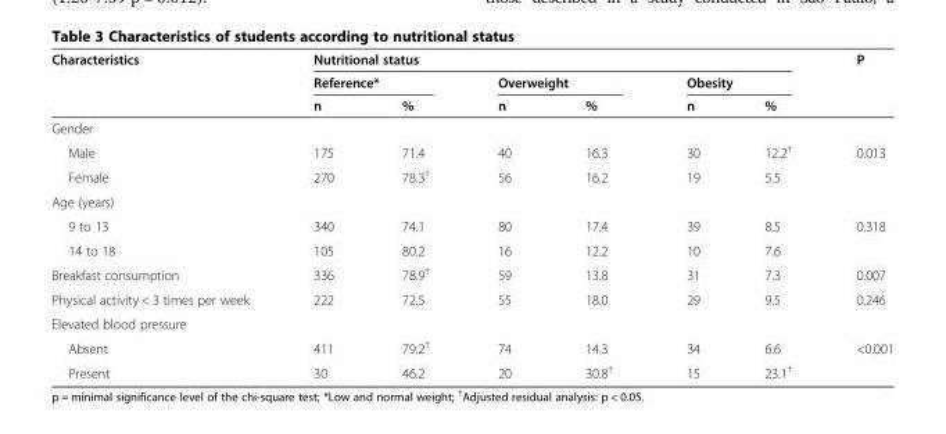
<table><thead><tr><td rowspan="3">Characteristics</td><td colspan="6">Nutritional status</td><td rowspan="3">P</td></tr><tr><td colspan="2">Reference*</td><td colspan="2">Overweight</td><td colspan="2">Obesity</td></tr><tr><td>n</td><td>%</td><td>n</td><td>%</td><td>n</td><td>%</td></tr></thead><tbody><tr><td colspan="8">Gender</td></tr><tr><td>Male</td><td>175</td><td>71.4</td><td>40</td><td>16.3</td><td>30</td><td>12.2<sup>†</sup></td><td rowspan="2">0.013</td></tr><tr><td>Female</td><td>270</td><td>78.3<sup>†</sup></td><td>56</td><td>16.2</td><td>19</td><td>5.5</td></tr><tr><td colspan="8">Age (years)</td></tr><tr><td>9 to 13</td><td>340</td><td>74.1</td><td>80</td><td>17.4</td><td>39</td><td>8.5</td><td rowspan="2">0.318</td></tr><tr><td>14 to 18</td><td>105</td><td>80.2</td><td>16</td><td>12.2</td><td>10</td><td>7.6</td></tr><tr><td>Breakfast consumption</td><td>336</td><td>78.9<sup>†</sup></td><td>59</td><td>13.8</td><td>31</td><td>7.3</td><td>0.007</td></tr><tr><td>Physical activity &lt; 3 times per week</td><td>222</td><td>72.5</td><td>55</td><td>18.0</td><td>29</td><td>9.5</td><td>0.246</td></tr><tr><td colspan="8">Elevated blood pressure</td></tr><tr><td>Absent</td><td>411</td><td>79.2<sup>†</sup></td><td>74</td><td>14.3</td><td>34</td><td>6.6</td><td rowspan="2">&lt;0.001</td></tr><tr><td>Present</td><td>30</td><td>46.2</td><td>20</td><td>30.8<sup>†</sup></td><td>15</td><td>23.1<sup>†</sup></td></tr></tbody></table>